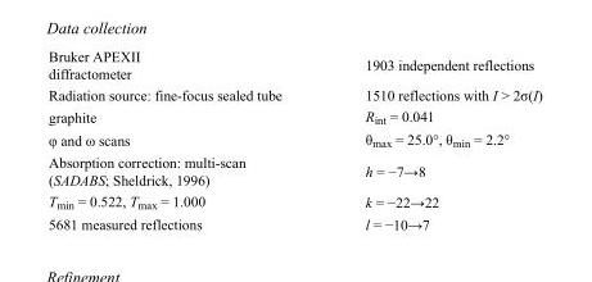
<table><tbody><tr><td>Bruker APEXII diffractometer</td><td>1903 independent reflections</td></tr><tr><td>Radiation source: fine-focus sealed tube</td><td>1510 reflections with I &gt; 2σ(I)</td></tr><tr><td>graphite</td><td>R<sub>int</sub> = 0.041</td></tr><tr><td>φ and ω scans</td><td>θ<sub>max</sub> = 25.0°, θ<sub>min</sub> = 2.2°</td></tr><tr><td>Absorption correction: multi-scan (SADABS; Sheldrick, 1996)</td><td>h = −7→8</td></tr><tr><td>T<sub>min</sub> = 0.522, T<sub>max</sub> = 1.000</td><td>k = −22→22</td></tr><tr><td>5681 measured reflections</td><td>l = −10→7</td></tr></tbody></table>